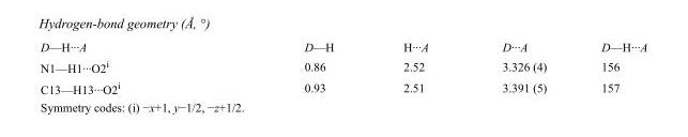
<table><tbody><tr><td>D—H···A</td><td>D—H</td><td>H···A</td><td>D···A</td><td>D—H···A</td></tr><tr><td>N1—H1···O2<sup>i</sup></td><td>0.86</td><td>2.52</td><td>3.326 (4)</td><td>156</td></tr><tr><td>C13—H13···O2<sup>i</sup></td><td>0.93</td><td>2.51</td><td>3.391 (5)</td><td>157</td></tr></tbody></table>